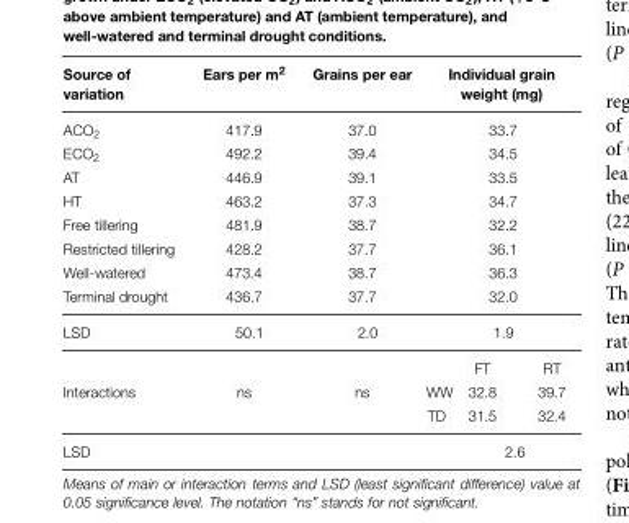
<table><thead><tr><td>Source of variation</td><td>Ears per m<sup>2</sup></td><td>Grains per ear</td><td colspan="3">Individual grain weight (mg)</td></tr></thead><tbody><tr><td>ACO<sub>2</sub></td><td>417.9</td><td>37.0</td><td colspan="3">33.7</td></tr><tr><td>ECO<sub>2</sub></td><td>492.2</td><td>39.4</td><td colspan="3">34.5</td></tr><tr><td>AT</td><td>446.9</td><td>39.1</td><td colspan="3">33.5</td></tr><tr><td>HT</td><td>463.2</td><td>37.3</td><td colspan="3">34.7</td></tr><tr><td>Free tillering</td><td>481.9</td><td>38.7</td><td colspan="3">32.2</td></tr><tr><td>Restricted tillering</td><td>428.2</td><td>37.7</td><td colspan="3">36.1</td></tr><tr><td>Well-watered</td><td>473.4</td><td>38.7</td><td colspan="3">36.3</td></tr><tr><td>Terminal drought</td><td>436.7</td><td>37.7</td><td colspan="3">32.0</td></tr><tr><td rowspan="2">LSD</td><td>50.1</td><td>2.0</td><td colspan="3">1.9</td></tr><tr><td></td><td></td><td></td><td>FT</td><td>RT</td></tr><tr><td rowspan="2">Interactions</td><td>ns</td><td>ns</td><td>WW</td><td>32.8</td><td>39.7</td></tr><tr><td></td><td></td><td>TD</td><td>31.5</td><td>32.4</td></tr><tr><td>LSD</td><td></td><td></td><td></td><td colspan="2">2.6</td></tr></tbody></table>